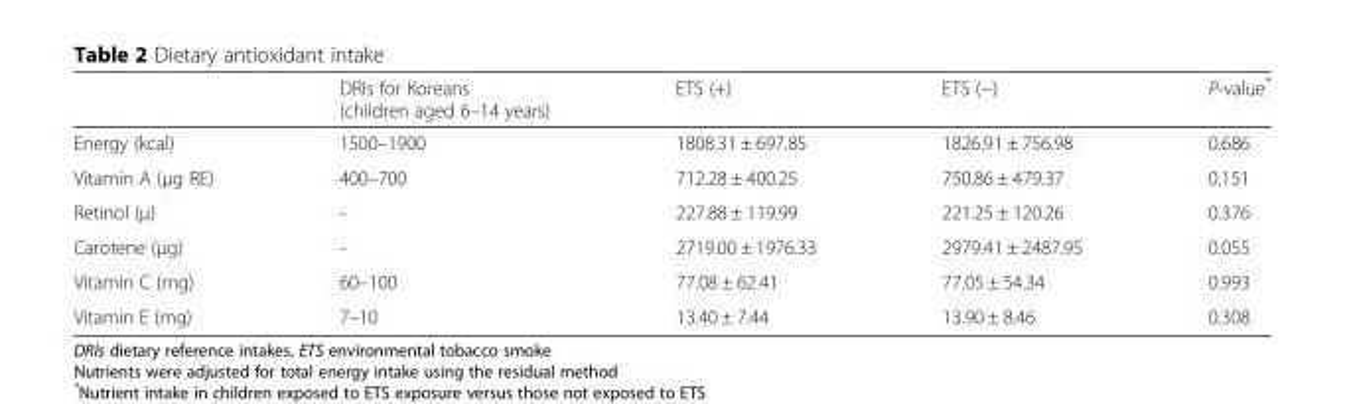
<table><thead><tr><td></td><td>DRIs for Koreans (children aged 6–14 years)</td><td>ETS (+)</td><td>ETS (−)</td><td>P-value*</td></tr></thead><tbody><tr><td>Energy (kcal)</td><td>1500–1900</td><td>1808.31 ± 697.85</td><td>1826.91 ± 756.98</td><td>0.686</td></tr><tr><td>Vitamin A (μg RE)</td><td>400–700</td><td>712.28 ± 400.25</td><td>750.86 ± 479.37</td><td>0.151</td></tr><tr><td>Retinol (μ)</td><td>-</td><td>227.88 ± 119.99</td><td>221.25 ± 120.26</td><td>0.376</td></tr><tr><td>Carotene (μg)</td><td>-</td><td>2719.00 ± 1976.33</td><td>2979.41 ± 2487.95</td><td>0.055</td></tr><tr><td>Vitamin C (mg)</td><td>60–100</td><td>77.08 ± 62.41</td><td>77.05 ± 54.34</td><td>0.993</td></tr><tr><td>Vitamin E (mg)</td><td>7–10</td><td>13.40 ± 7.44</td><td>13.90 ± 8.46</td><td>0.308</td></tr></tbody></table>